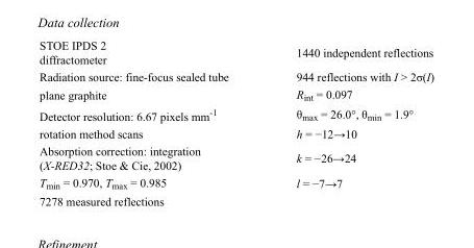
<table><tbody><tr><td>STOE IPDS 2 diffractometer</td><td>1440 independent reflections</td></tr><tr><td>Radiation source: fine-focus sealed tube</td><td>944 reflections with I &gt; 2σ(I)</td></tr><tr><td>plane graphite</td><td>R<sub>int</sub> = 0.097</td></tr><tr><td>Detector resolution: 6.67 pixels mm<sup>-1</sup></td><td>θ<sub>max</sub> = 26.0°, θ<sub>min</sub> = 1.9°</td></tr><tr><td>rotation method scans</td><td>h = −12→10</td></tr><tr><td>Absorption correction: integration (X-RED32; Stoe &amp; Cie, 2002)</td><td>k = −26→24</td></tr><tr><td>T<sub>min</sub> = 0.970, T<sub>max</sub> = 0.985</td><td>l = −7→7</td></tr><tr><td>7278 measured reflections</td><td></td></tr></tbody></table>